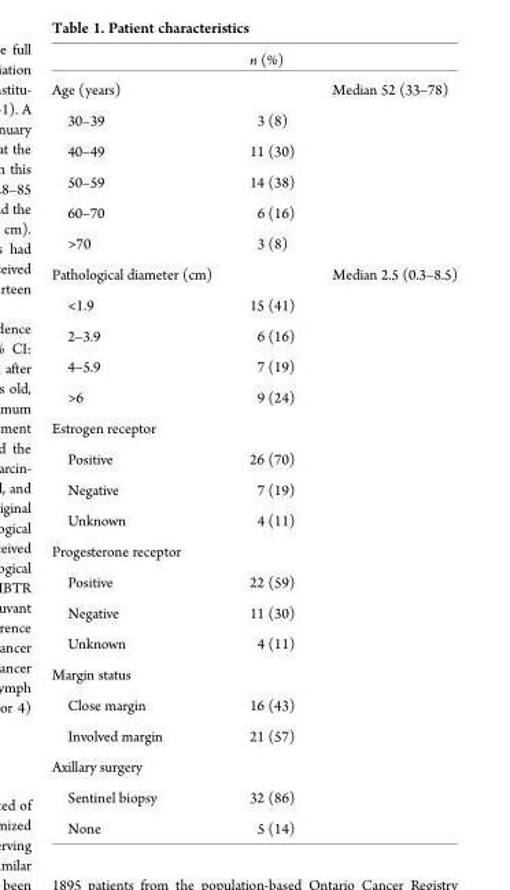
<table><thead><tr><td></td><td>n (%)</td><td></td></tr></thead><tbody><tr><td>Age (years)</td><td></td><td>Median 52 (33–78)</td></tr><tr><td>30–39</td><td>3 (8)</td><td></td></tr><tr><td>40–49</td><td>11 (30)</td><td></td></tr><tr><td>50–59</td><td>14 (38)</td><td></td></tr><tr><td>60–70</td><td>6 (16)</td><td></td></tr><tr><td>&gt;70</td><td>3 (8)</td><td></td></tr><tr><td>Pathological diameter (cm)</td><td></td><td>Median 2.5 (0.3–8.5)</td></tr><tr><td>&lt;1.9</td><td>15 (41)</td><td></td></tr><tr><td>2–3.9</td><td>6 (16)</td><td></td></tr><tr><td>4–5.9</td><td>7 (19)</td><td></td></tr><tr><td>&gt;6</td><td>9 (24)</td><td></td></tr><tr><td colspan="3">Estrogen receptor</td></tr><tr><td>Positive</td><td>26 (70)</td><td></td></tr><tr><td>Negative</td><td>7 (19)</td><td></td></tr><tr><td>Unknown</td><td>4 (11)</td><td></td></tr><tr><td colspan="3">Progesterone receptor</td></tr><tr><td>Positive</td><td>22 (59)</td><td></td></tr><tr><td>Negative</td><td>11 (30)</td><td></td></tr><tr><td>Unknown</td><td>4 (11)</td><td></td></tr><tr><td colspan="3">Margin status</td></tr><tr><td>Close margin</td><td>16 (43)</td><td></td></tr><tr><td>Involved margin</td><td>21 (57)</td><td></td></tr><tr><td colspan="3">Axillary surgery</td></tr><tr><td>Sentinel biopsy</td><td>32 (86)</td><td></td></tr><tr><td>None</td><td>5 (14)</td><td></td></tr></tbody></table>